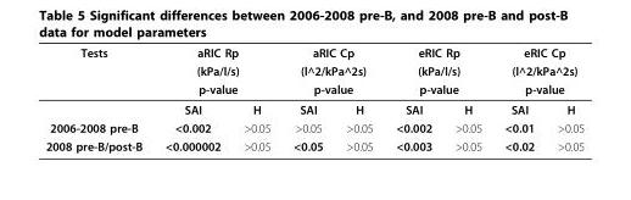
<table><thead><tr><td rowspan="4">Tests</td><td rowspan="3" colspan="2">aRIC Rp (kPa/l/s) p-value</td><td rowspan="3" colspan="2">aRIC Cp (l^2/kPa^2s) p-value</td><td rowspan="3" colspan="2">eRIC Rp (kPa/l/s) p-value</td><td rowspan="3" colspan="2">eRIC Cp (l^2/kPa^2s) p-value</td></tr><tr></tr><tr></tr><tr><td>SAI</td><td>H</td><td>SAI</td><td>H</td><td>SAI</td><td>H</td><td>SAI</td><td>H</td></tr></thead><tbody><tr><td>2006-2008 pre-B</td><td>&lt;0.002</td><td>&gt;0.05</td><td>&gt;0.05</td><td>&gt;0.05</td><td>&lt;0.002</td><td>&gt;0.05</td><td>&lt;0.01</td><td>&gt;0.05</td></tr><tr><td>2008 pre-B/post-B</td><td>&lt;0.000002</td><td>&gt;0.05</td><td>&lt;0.05</td><td>&gt;0.05</td><td>&lt;0.003</td><td>&gt;0.05</td><td>&lt;0.02</td><td>&gt;0.05</td></tr></tbody></table>